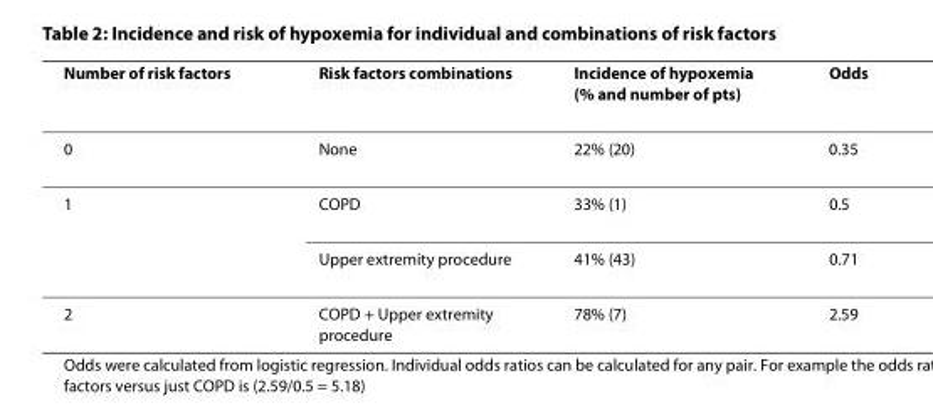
<table><thead><tr><td>Number of risk factors</td><td>Risk factors combinations</td><td>Incidence of hypoxemia (% and number of pts)</td><td>Odds</td></tr></thead><tbody><tr><td>0</td><td>None</td><td>22% (20)</td><td>0.35</td></tr><tr><td rowspan="2">1</td><td>COPD</td><td>33% (1)</td><td>0.5</td></tr><tr><td>Upper extremity procedure</td><td>41% (43)</td><td>0.71</td></tr><tr><td>2</td><td>COPD + Upper extremity procedure</td><td>78% (7)</td><td>2.59</td></tr></tbody></table>